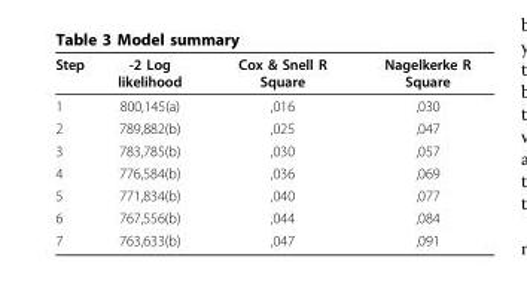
<table><thead><tr><td>Step</td><td>-2 Log likelihood</td><td>Cox &amp; Snell R Square</td><td>Nagelkerke R Square</td></tr></thead><tbody><tr><td>1</td><td>800,145(a)</td><td>,016</td><td>,030</td></tr><tr><td>2</td><td>789,882(b)</td><td>,025</td><td>,047</td></tr><tr><td>3</td><td>783,785(b)</td><td>,030</td><td>,057</td></tr><tr><td>4</td><td>776,584(b)</td><td>,036</td><td>,069</td></tr><tr><td>5</td><td>771,834(b)</td><td>,040</td><td>,077</td></tr><tr><td>6</td><td>767,556(b)</td><td>,044</td><td>,084</td></tr><tr><td>7</td><td>763,633(b)</td><td>,047</td><td>,091</td></tr></tbody></table>